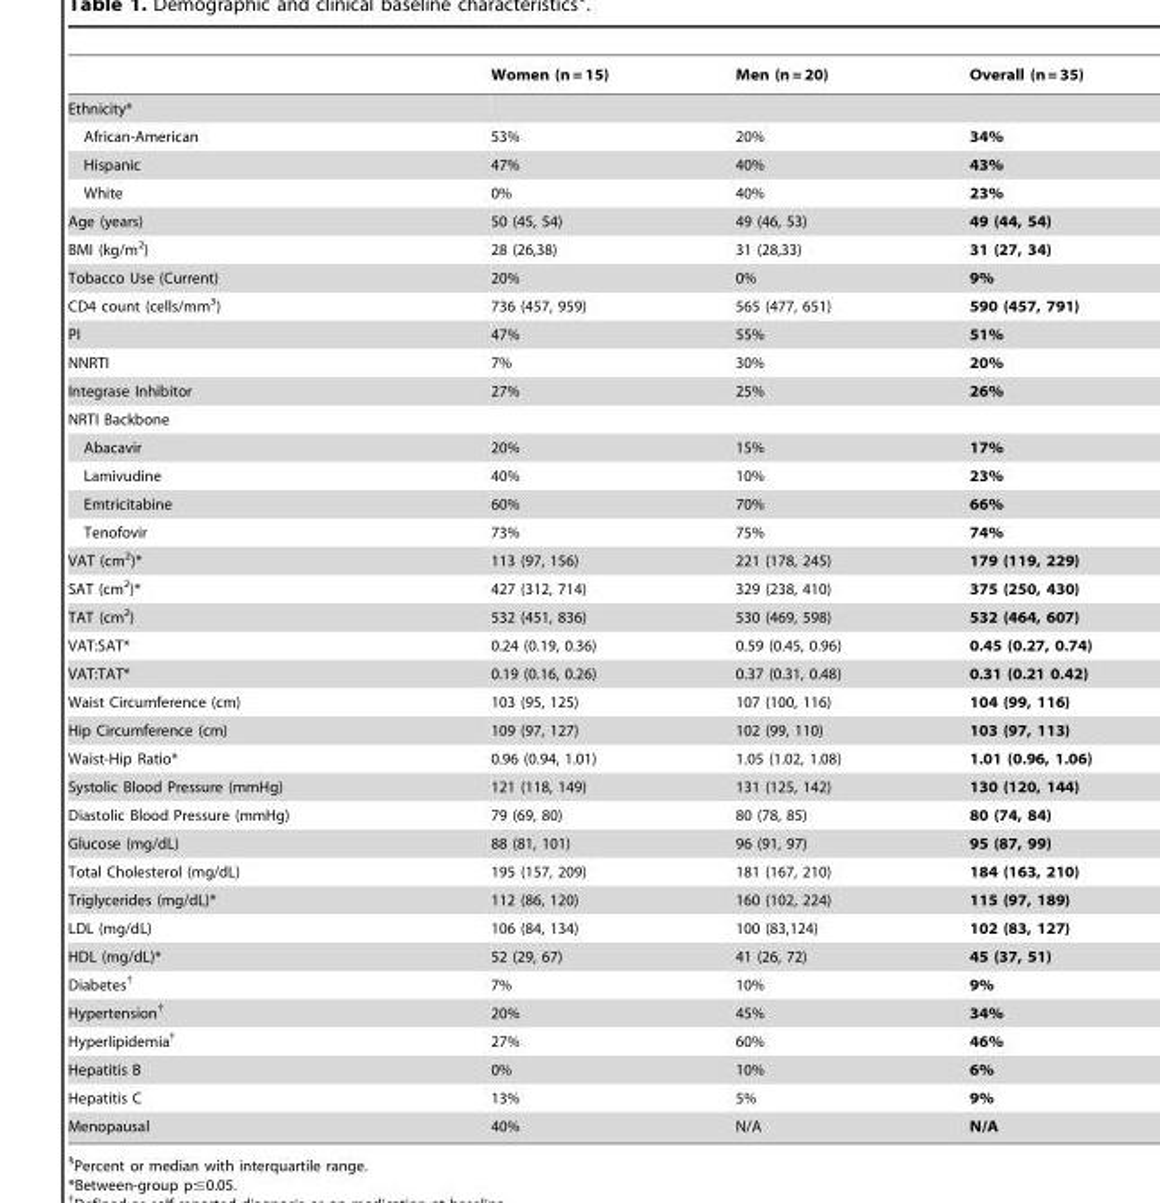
<table><thead><tr><td></td><td>Women (n = 15)</td><td>Men (n = 20)</td><td>Overall (n = 35)</td></tr></thead><tbody><tr><td colspan="4">Ethnicity*</td></tr><tr><td>African-American</td><td>53%</td><td>20%</td><td>34%</td></tr><tr><td>Hispanic</td><td>47%</td><td>40%</td><td>43%</td></tr><tr><td>White</td><td>0%</td><td>40%</td><td>23%</td></tr><tr><td>Age (years)</td><td>50 (45, 54)</td><td>49 (46, 53)</td><td>49 (44, 54)</td></tr><tr><td>BMI (kg/m<sup>2</sup>)</td><td>28 (26,38)</td><td>31 (28,33)</td><td>31 (27, 34)</td></tr><tr><td>Tobacco Use (Current)</td><td>20%</td><td>0%</td><td>9%</td></tr><tr><td>CD4 count (cells/mm<sup>3</sup>)</td><td>736 (457, 959)</td><td>565 (477, 651)</td><td>590 (457, 791)</td></tr><tr><td>PI</td><td>47%</td><td>55%</td><td>51%</td></tr><tr><td>NNRTI</td><td>7%</td><td>30%</td><td>20%</td></tr><tr><td>Integrase Inhibitor</td><td>27%</td><td>25%</td><td>26%</td></tr><tr><td colspan="4">NRTI Backbone</td></tr><tr><td>Abacavir</td><td>20%</td><td>15%</td><td>17%</td></tr><tr><td>Lamivudine</td><td>40%</td><td>10%</td><td>23%</td></tr><tr><td>Emtricitabine</td><td>60%</td><td>70%</td><td>66%</td></tr><tr><td>Tenofovir</td><td>73%</td><td>75%</td><td>74%</td></tr><tr><td>VAT (cm<sup>2</sup>)*</td><td>113 (97, 156)</td><td>221 (178, 245)</td><td>179 (119, 229)</td></tr><tr><td>SAT (cm<sup>2</sup>)*</td><td>427 (312, 714)</td><td>329 (238, 410)</td><td>375 (250, 430)</td></tr><tr><td>TAT (cm<sup>2</sup>)</td><td>532 (451, 836)</td><td>530 (469, 598)</td><td>532 (464, 607)</td></tr><tr><td>VAT:SAT*</td><td>0.24 (0.19, 0.36)</td><td>0.59 (0.45, 0.96)</td><td>0.45 (0.27, 0.74)</td></tr><tr><td>VAT:TAT*</td><td>0.19 (0.16, 0.26)</td><td>0.37 (0.31, 0.48)</td><td>0.31 (0.21 0.42)</td></tr><tr><td>Waist Circumference (cm)</td><td>103 (95, 125)</td><td>107 (100, 116)</td><td>104 (99, 116)</td></tr><tr><td>Hip Circumference (cm)</td><td>109 (97, 127)</td><td>102 (99, 110)</td><td>103 (97, 113)</td></tr><tr><td>Waist-Hip Ratio*</td><td>0.96 (0.94, 1.01)</td><td>1.05 (1.02, 1.08)</td><td>1.01 (0.96, 1.06)</td></tr><tr><td>Systolic Blood Pressure (mmHg)</td><td>121 (118, 149)</td><td>131 (125, 142)</td><td>130 (120, 144)</td></tr><tr><td>Diastolic Blood Pressure (mmHg)</td><td>79 (69, 80)</td><td>80 (78, 85)</td><td>80 (74, 84)</td></tr><tr><td>Glucose (mg/dL)</td><td>88 (81, 101)</td><td>96 (91, 97)</td><td>95 (87, 99)</td></tr><tr><td>Total Cholesterol (mg/dL)</td><td>195 (157, 209)</td><td>181 (167, 210)</td><td>184 (163, 210)</td></tr><tr><td>Triglycerides (mg/dL)*</td><td>112 (86, 120)</td><td>160 (102, 224)</td><td>115 (97, 189)</td></tr><tr><td>LDL (mg/dL)</td><td>106 (84, 134)</td><td>100 (83,124)</td><td>102 (83, 127)</td></tr><tr><td>HDL (mg/dL)*</td><td>52 (29, 67)</td><td>41 (26, 72)</td><td>45 (37, 51)</td></tr><tr><td>Diabetes†</td><td>7%</td><td>10%</td><td>9%</td></tr><tr><td>Hypertension†</td><td>20%</td><td>45%</td><td>34%</td></tr><tr><td>Hyperlipidemia†</td><td>27%</td><td>60%</td><td>46%</td></tr><tr><td>Hepatitis B</td><td>0%</td><td>10%</td><td>6%</td></tr><tr><td>Hepatitis C</td><td>13%</td><td>5%</td><td>9%</td></tr><tr><td>Menopausal</td><td>40%</td><td>N/A</td><td>N/A</td></tr></tbody></table>